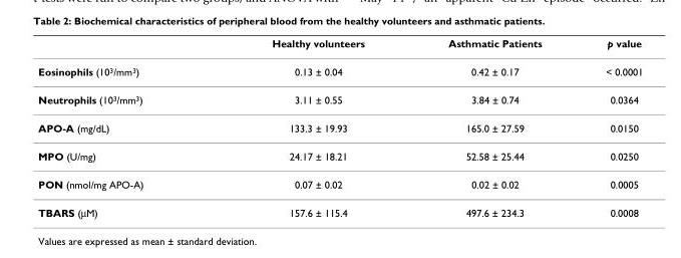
<table><thead><tr><td></td><td>Healthy volunteers</td><td>Asthmatic Patients</td><td>p value</td></tr></thead><tbody><tr><td>Eosinophils (10<sup>3</sup>/mm<sup>3</sup>)</td><td>0.13 ± 0.04</td><td>0.42 ± 0.17</td><td>&lt; 0.0001</td></tr><tr><td>Neutrophils (10<sup>3</sup>/mm<sup>3</sup>)</td><td>3.11 ± 0.55</td><td>3.84 ± 0.74</td><td>0.0364</td></tr><tr><td>APO-A (mg/dL)</td><td>133.3 ± 19.93</td><td>165.0 ± 27.59</td><td>0.0150</td></tr><tr><td>MPO (U/mg)</td><td>24.17 ± 18.21</td><td>52.58 ± 25.44</td><td>0.0250</td></tr><tr><td>PON (nmol/mg APO-A)</td><td>0.07 ± 0.02</td><td>0.02 ± 0.02</td><td>0.0005</td></tr><tr><td>TBARS (μM)</td><td>157.6 ± 115.4</td><td>497.6 ± 234.3</td><td>0.0008</td></tr></tbody></table>